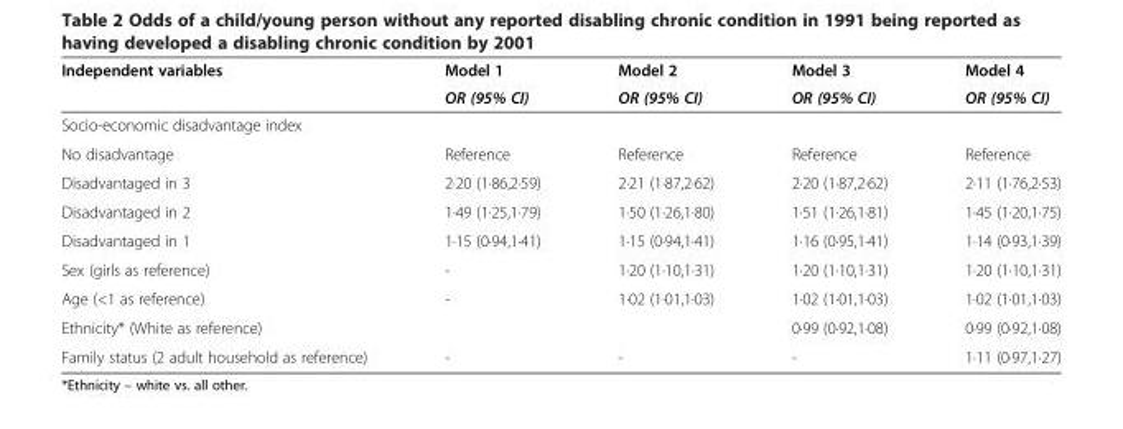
<table><thead><tr><td rowspan="2">Independent variables</td><td rowspan="2">Model 1 OR (95% CI)</td><td rowspan="2">Model 2 OR (95% CI)</td><td rowspan="2">Model 3 OR (95% CI)</td><td rowspan="2">Model 4 OR (95% CI)</td></tr><tr></tr></thead><tbody><tr><td colspan="5">Socio-economic disadvantage index</td></tr><tr><td>No disadvantage</td><td>Reference</td><td>Reference</td><td>Reference</td><td>Reference</td></tr><tr><td>Disadvantaged in 3</td><td>2·20 (1·86,2·59)</td><td>2·21 (1·87,2·62)</td><td>2·20 (1·87,2·62)</td><td>2·11 (1·76,2·53)</td></tr><tr><td>Disadvantaged in 2</td><td>1·49 (1·25,1·79)</td><td>1·50 (1·26,1·80)</td><td>1·51 (1·26,1·81)</td><td>1·45 (1·20,1·75)</td></tr><tr><td>Disadvantaged in 1</td><td>1·15 (0·94,1·41)</td><td>1·15 (0·94,1·41)</td><td>1·16 (0·95,1·41)</td><td>1·14 (0·93,1·39)</td></tr><tr><td>Sex (girls as reference)</td><td>-</td><td>1·20 (1·10,1·31)</td><td>1·20 (1·10,1·31)</td><td>1·20 (1·10,1·31)</td></tr><tr><td>Age (&lt;1 as reference)</td><td>-</td><td>1·02 (1·01,1·03)</td><td>1·02 (1·01,1·03)</td><td>1·02 (1·01,1·03)</td></tr><tr><td>Ethnicity* (White as reference)</td><td></td><td></td><td>0·99 (0·92,1·08)</td><td>0·99 (0·92,1·08)</td></tr><tr><td>Family status (2 adult household as reference)</td><td>-</td><td>-</td><td>-</td><td>1·11 (0·97,1·27)</td></tr></tbody></table>